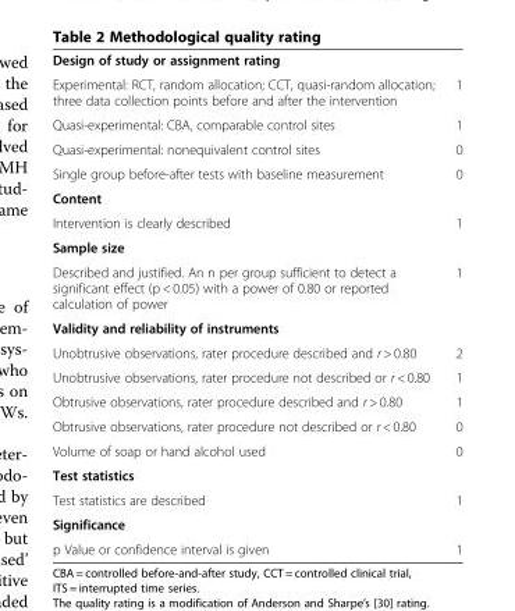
<table><tbody><tr><td colspan="2">Design of study or assignment rating</td></tr><tr><td>Experimental: RCT, random allocation; CCT, quasi-random allocation; three data collection points before and after the intervention</td><td>1</td></tr><tr><td>Quasi-experimental: CBA, comparable control sites</td><td>1</td></tr><tr><td>Quasi-experimental: nonequivalent control sites</td><td>0</td></tr><tr><td>Single group before-after tests with baseline measurement</td><td>0</td></tr><tr><td colspan="2">Content</td></tr><tr><td>Intervention is clearly described</td><td>1</td></tr><tr><td colspan="2">Sample size</td></tr><tr><td>Described and justified. An n per group sufficient to detect a significant effect (p &lt; 0.05) with a power of 0.80 or reported calculation of power</td><td>1</td></tr><tr><td colspan="2">Validity and reliability of instruments</td></tr><tr><td>Unobtrusive observations, rater procedure described and r &gt; 0.80</td><td>2</td></tr><tr><td>Unobtrusive observations, rater procedure not described or r &lt; 0.80</td><td>1</td></tr><tr><td>Obtrusive observations, rater procedure described and r &gt; 0.80</td><td>1</td></tr><tr><td>Obtrusive observations, rater procedure not described or r &lt; 0.80</td><td>0</td></tr><tr><td>Volume of soap or hand alcohol used</td><td>0</td></tr><tr><td colspan="2">Test statistics</td></tr><tr><td>Test statistics are described</td><td>1</td></tr><tr><td colspan="2">Significance</td></tr><tr><td>p Value or confidence interval is given</td><td>1</td></tr></tbody></table>